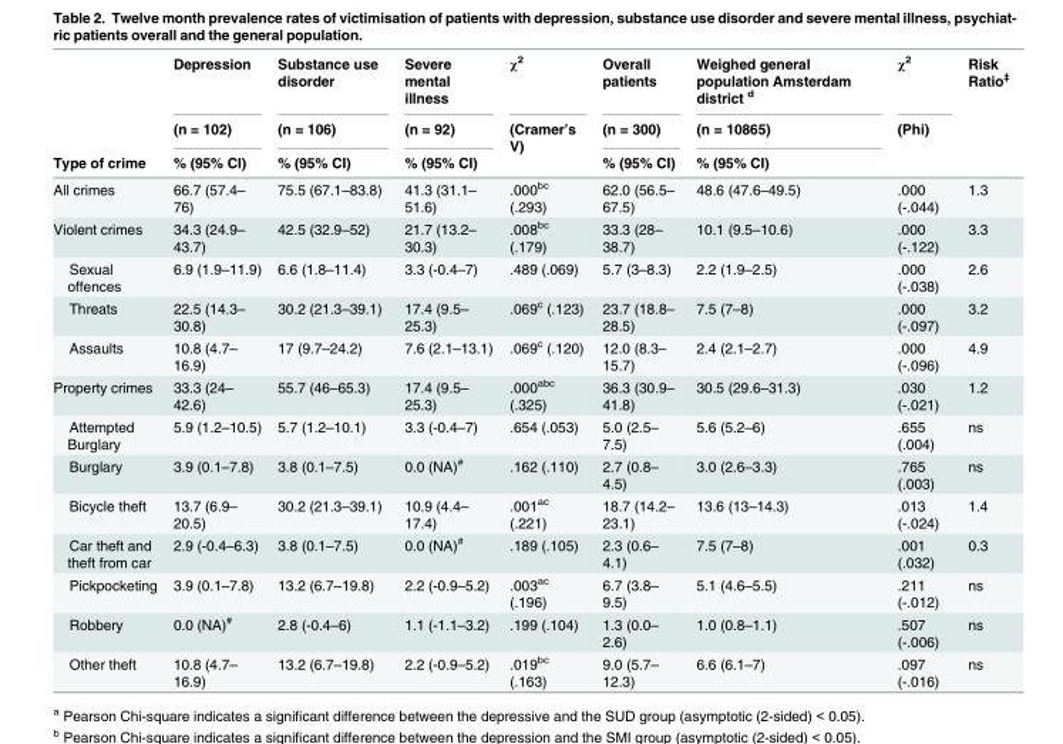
<table><thead><tr><td rowspan="3">Type of crime</td><td rowspan="3">Depression (n = 102) % (95% CI)</td><td rowspan="3">Substance use disorder (n = 106) % (95% CI)</td><td rowspan="3">Severe mental illness (n = 92) % (95% CI)</td><td rowspan="3">χ<sup>2</sup> (Cramer’s V)</td><td rowspan="3">Overall patients (n = 300) % (95% CI)</td><td rowspan="3">Weighed general population Amsterdam district <sup>d</sup> (n = 10865) % (95% CI)</td><td rowspan="3">χ<sup>2</sup> (Phi)</td><td rowspan="3">Risk Ratio<sup>‡</sup></td></tr><tr></tr><tr></tr></thead><tbody><tr><td>All crimes</td><td>66.7 (57.4– 76)</td><td>75.5 (67.1–83.8)</td><td>41.3 (31.1– 51.6)</td><td>.000<sup>bc</sup> (.293)</td><td>62.0 (56.5– 67.5)</td><td>48.6 (47.6–49.5)</td><td>.000 (-.044)</td><td>1.3</td></tr><tr><td>Violent crimes</td><td>34.3 (24.9– 43.7)</td><td>42.5 (32.9–52)</td><td>21.7 (13.2– 30.3)</td><td>.008<sup>bc</sup> (.179)</td><td>33.3 (28– 38.7)</td><td>10.1 (9.5–10.6)</td><td>.000 (-.122)</td><td>3.3</td></tr><tr><td>Sexual offences</td><td>6.9 (1.9–11.9)</td><td>6.6 (1.8–11.4)</td><td>3.3 (-0.4–7)</td><td>.489 (.069)</td><td>5.7 (3–8.3)</td><td>2.2 (1.9–2.5)</td><td>.000 (-.038)</td><td>2.6</td></tr><tr><td>Threats</td><td>22.5 (14.3– 30.8)</td><td>30.2 (21.3–39.1)</td><td>17.4 (9.5– 25.3)</td><td>.069<sup>c</sup> (.123)</td><td>23.7 (18.8– 28.5)</td><td>7.5 (7–8)</td><td>.000 (-.097)</td><td>3.2</td></tr><tr><td>Assaults</td><td>10.8 (4.7– 16.9)</td><td>17 (9.7–24.2)</td><td>7.6 (2.1–13.1)</td><td>.069<sup>c</sup> (.120)</td><td>12.0 (8.3– 15.7)</td><td>2.4 (2.1–2.7)</td><td>.000 (-.096)</td><td>4.9</td></tr><tr><td>Property crimes</td><td>33.3 (24– 42.6)</td><td>55.7 (46–65.3)</td><td>17.4 (9.5– 25.3)</td><td>.000<sup>abc</sup> (.325)</td><td>36.3 (30.9– 41.8)</td><td>30.5 (29.6–31.3)</td><td>.030 (-.021)</td><td>1.2</td></tr><tr><td>Attempted Burglary</td><td>5.9 (1.2–10.5)</td><td>5.7 (1.2–10.1)</td><td>3.3 (-0.4–7)</td><td>.654 (.053)</td><td>5.0 (2.5– 7.5)</td><td>5.6 (5.2–6)</td><td>.655 (.004)</td><td>ns</td></tr><tr><td>Burglary</td><td>3.9 (0.1–7.8)</td><td>3.8 (0.1–7.5)</td><td>0.0 (NA)<sup>#</sup></td><td>.162 (.110)</td><td>2.7 (0.8– 4.5)</td><td>3.0 (2.6–3.3)</td><td>.765 (.003)</td><td>ns</td></tr><tr><td>Bicycle theft</td><td>13.7 (6.9– 20.5)</td><td>30.2 (21.3–39.1)</td><td>10.9 (4.4– 17.4)</td><td>.001<sup>ac</sup> (.221)</td><td>18.7 (14.2– 23.1)</td><td>13.6 (13–14.3)</td><td>.013 (-.024)</td><td>1.4</td></tr><tr><td>Car theft and theft from car</td><td>2.9 (-0.4–6.3)</td><td>3.8 (0.1–7.5)</td><td>0.0 (NA)<sup>#</sup></td><td>.189 (.105)</td><td>2.3 (0.6– 4.1)</td><td>7.5 (7–8)</td><td>.001 (.032)</td><td>0.3</td></tr><tr><td>Pickpocketing</td><td>3.9 (0.1–7.8)</td><td>13.2 (6.7–19.8)</td><td>2.2 (-0.9–5.2)</td><td>.003<sup>ac</sup> (.196)</td><td>6.7 (3.8– 9.5)</td><td>5.1 (4.6–5.5)</td><td>.211 (-.012)</td><td>ns</td></tr><tr><td>Robbery</td><td>0.0 (NA)<sup>#</sup></td><td>2.8 (-0.4–6)</td><td>1.1 (-1.1–3.2)</td><td>.199 (.104)</td><td>1.3 (0.0– 2.6)</td><td>1.0 (0.8–1.1)</td><td>.507 (-.006)</td><td>ns</td></tr><tr><td>Other theft</td><td>10.8 (4.7– 16.9)</td><td>13.2 (6.7–19.8)</td><td>2.2 (-0.9–5.2)</td><td>.019<sup>bc</sup> (.163)</td><td>9.0 (5.7– 12.3)</td><td>6.6 (6.1–7)</td><td>.097 (-.016)</td><td>ns</td></tr></tbody></table>